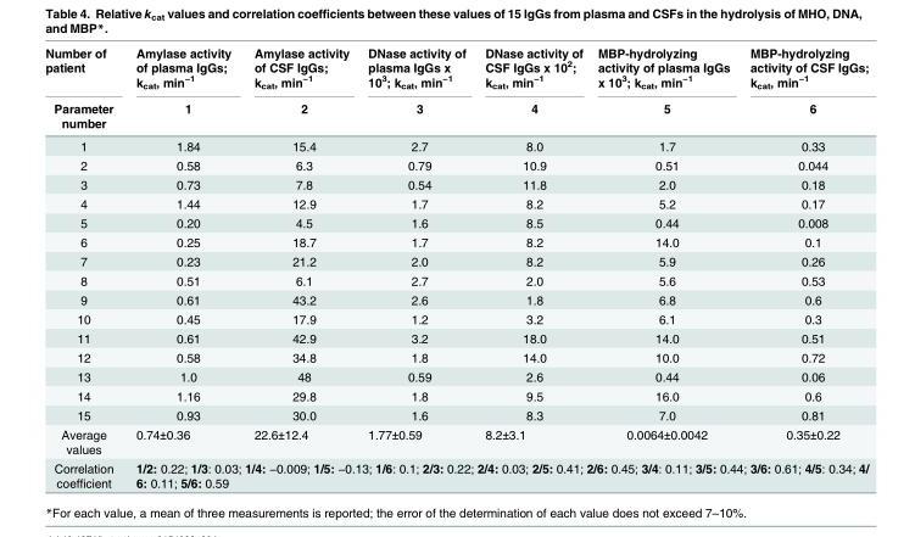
<table><thead><tr><td rowspan="2">Number of patient Parameter number</td><td rowspan="2">Amylase activity of plasma IgGs; k<sub>cat</sub>, min<sup>−1</sup> 1</td><td rowspan="2">Amylase activity of CSF IgGs; k<sub>cat</sub>, min<sup>−1</sup> 2</td><td rowspan="2">DNase activity of plasma IgGs x 10<sup>3</sup>; k<sub>cat</sub>, min<sup>−1</sup> 3</td><td rowspan="2">DNase activity of CSF IgGs x 10<sup>2</sup>; k<sub>cat</sub>, min<sup>−1</sup> 4</td><td rowspan="2">MBP-hydrolyzing activity of plasma IgGs x 10<sup>3</sup>; k<sub>cat</sub>, min<sup>−1</sup> 5</td><td rowspan="2">MBP-hydrolyzing activity of CSF IgGs; k<sub>cat</sub>, min<sup>−1</sup> 6</td></tr><tr></tr></thead><tbody><tr><td>1</td><td>1.84</td><td>15.4</td><td>2.7</td><td>8.0</td><td>1.7</td><td>0.33</td></tr><tr><td>2</td><td>0.58</td><td>6.3</td><td>0.79</td><td>10.9</td><td>0.51</td><td>0.044</td></tr><tr><td>3</td><td>0.73</td><td>7.8</td><td>0.54</td><td>11.8</td><td>2.0</td><td>0.18</td></tr><tr><td>4</td><td>1.44</td><td>12.9</td><td>1.7</td><td>8.2</td><td>5.2</td><td>0.17</td></tr><tr><td>5</td><td>0.20</td><td>4.5</td><td>1.6</td><td>8.5</td><td>0.44</td><td>0.008</td></tr><tr><td>6</td><td>0.25</td><td>18.7</td><td>1.7</td><td>8.2</td><td>14.0</td><td>0.1</td></tr><tr><td>7</td><td>0.23</td><td>21.2</td><td>2.0</td><td>8.2</td><td>5.9</td><td>0.26</td></tr><tr><td>8</td><td>0.51</td><td>6.1</td><td>2.7</td><td>2.0</td><td>5.6</td><td>0.53</td></tr><tr><td>9</td><td>0.61</td><td>43.2</td><td>2.6</td><td>1.8</td><td>6.8</td><td>0.6</td></tr><tr><td>10</td><td>0.45</td><td>17.9</td><td>1.2</td><td>3.2</td><td>6.1</td><td>0.3</td></tr><tr><td>11</td><td>0.61</td><td>42.9</td><td>3.2</td><td>18.0</td><td>14.0</td><td>0.51</td></tr><tr><td>12</td><td>0.58</td><td>34.8</td><td>1.8</td><td>14.0</td><td>10.0</td><td>0.72</td></tr><tr><td>13</td><td>1.0</td><td>48</td><td>0.59</td><td>2.6</td><td>0.44</td><td>0.06</td></tr><tr><td>14</td><td>1.16</td><td>29.8</td><td>1.8</td><td>9.5</td><td>16.0</td><td>0.6</td></tr><tr><td>15</td><td>0.93</td><td>30.0</td><td>1.6</td><td>8.3</td><td>7.0</td><td>0.81</td></tr><tr><td>Average values</td><td>0.74±0.36</td><td>22.6±12.4</td><td>1.77±0.59</td><td>8.2±3.1</td><td>0.0064±0.0042</td><td>0.35±0.22</td></tr><tr><td>Correlation coefficient</td><td colspan="6">1/2: 0.22; 1/3: 0.03; 1/4: −0.009; 1/5: −0.13; 1/6: 0.1; 2/3: 0.22; 2/4: 0.03; 2/5: 0.41; 2/6: 0.45; 3/4: 0.11; 3/5: 0.44; 3/6: 0.61; 4/5: 0.34; 4/ 6: 0.11; 5/6: 0.59</td></tr></tbody></table>